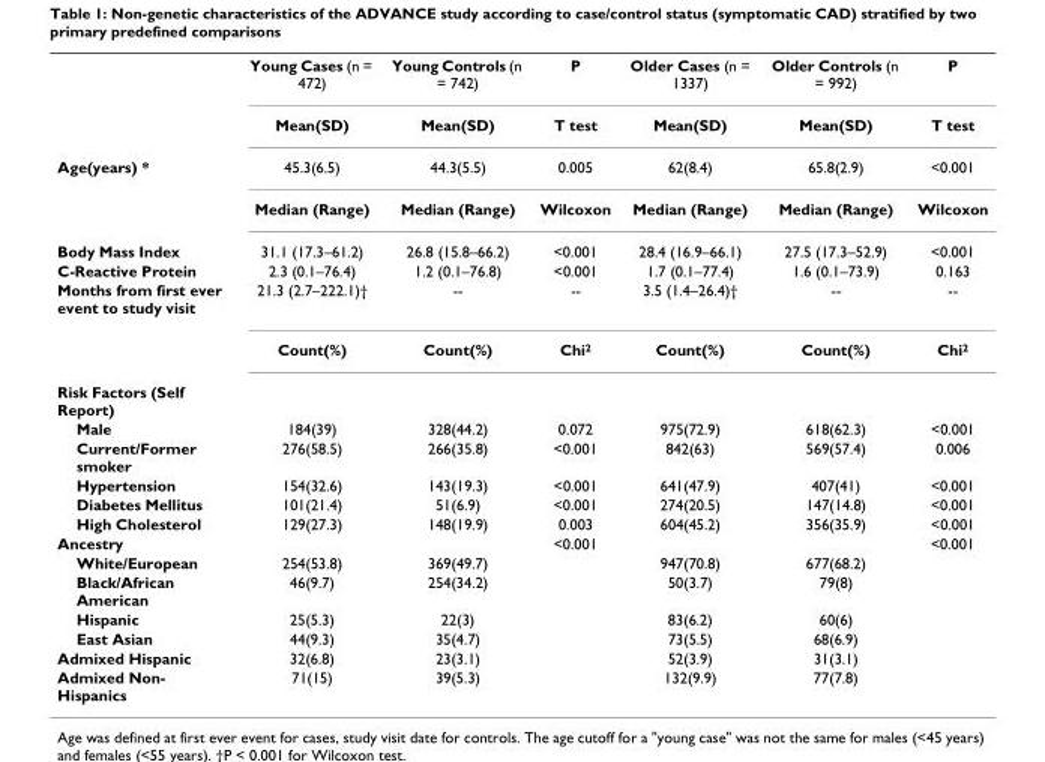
<table><thead><tr><td></td><td>Young Cases (n = 472)</td><td>Young Controls (n = 742)</td><td>P</td><td>Older Cases (n = 1337)</td><td>Older Controls (n = 992)</td><td>P</td></tr></thead><tbody><tr><td></td><td>Mean(SD)</td><td>Mean(SD)</td><td>T test</td><td>Mean(SD)</td><td>Mean(SD)</td><td>T test</td></tr><tr><td rowspan="2">Age(years) *</td><td>45.3(6.5)</td><td>44.3(5.5)</td><td>0.005</td><td>62(8.4)</td><td>65.8(2.9)</td><td>&lt;0.001</td></tr><tr><td>Median (Range)</td><td>Median (Range)</td><td>Wilcoxon</td><td>Median (Range)</td><td>Median (Range)</td><td>Wilcoxon</td></tr><tr><td>Body Mass Index</td><td>31.1 (17.3–61.2)</td><td>26.8 (15.8–66.2)</td><td>&lt;0.001</td><td>28.4 (16.9–66.1)</td><td>27.5 (17.3–52.9)</td><td>&lt;0.001</td></tr><tr><td>C-Reactive Protein</td><td>2.3 (0.1–76.4)</td><td>1.2 (0.1–76.8)</td><td>&lt;0.001</td><td>1.7 (0.1–77.4)</td><td>1.6 (0.1–73.9)</td><td>0.163</td></tr><tr><td rowspan="2">Months from first ever event to study visit</td><td>21.3 (2.7–222.1)†</td><td>--</td><td>--</td><td>3.5 (1.4–26.4)†</td><td>--</td><td>--</td></tr><tr><td>Count(%)</td><td>Count(%)</td><td>Chi<sup>2</sup></td><td>Count(%)</td><td>Count(%)</td><td>Chi<sup>2</sup></td></tr><tr><td colspan="7">Risk Factors (Self Report)</td></tr><tr><td>Male</td><td>184(39)</td><td>328(44.2)</td><td>0.072</td><td>975(72.9)</td><td>618(62.3)</td><td>&lt;0.001</td></tr><tr><td>Current/Former smoker</td><td>276(58.5)</td><td>266(35.8)</td><td>&lt;0.001</td><td>842(63)</td><td>569(57.4)</td><td>0.006</td></tr><tr><td>Hypertension</td><td>154(32.6)</td><td>143(19.3)</td><td>&lt;0.001</td><td>641(47.9)</td><td>407(41)</td><td>&lt;0.001</td></tr><tr><td>Diabetes Mellitus</td><td>101(21.4)</td><td>51(6.9)</td><td>&lt;0.001</td><td>274(20.5)</td><td>147(14.8)</td><td>&lt;0.001</td></tr><tr><td>High Cholesterol</td><td>129(27.3)</td><td>148(19.9)</td><td>0.003</td><td>604(45.2)</td><td>356(35.9)</td><td>&lt;0.001</td></tr><tr><td>Ancestry</td><td></td><td></td><td>&lt;0.001</td><td></td><td></td><td>&lt;0.001</td></tr><tr><td>White/European</td><td>254(53.8)</td><td>369(49.7)</td><td></td><td>947(70.8)</td><td>677(68.2)</td><td></td></tr><tr><td>Black/African American</td><td>46(9.7)</td><td>254(34.2)</td><td></td><td>50(3.7)</td><td>79(8)</td><td></td></tr><tr><td>Hispanic</td><td>25(5.3)</td><td>22(3)</td><td></td><td>83(6.2)</td><td>60(6)</td><td></td></tr><tr><td>East Asian</td><td>44(9.3)</td><td>35(4.7)</td><td></td><td>73(5.5)</td><td>68(6.9)</td><td></td></tr><tr><td>Admixed Hispanic</td><td>32(6.8)</td><td>23(3.1)</td><td></td><td>52(3.9)</td><td>31(3.1)</td><td></td></tr><tr><td>Admixed Non- Hispanics</td><td>71(15)</td><td>39(5.3)</td><td></td><td>132(9.9)</td><td>77(7.8)</td><td></td></tr></tbody></table>